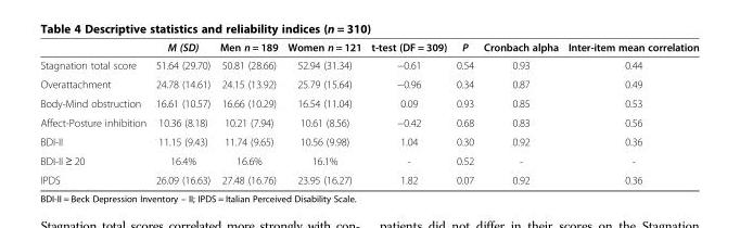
<table><thead><tr><td></td><td>M (SD)</td><td>Men n = 189</td><td>Women n = 121</td><td>t-test (DF = 309)</td><td>P</td><td>Cronbach alpha</td><td>Inter-item mean correlation</td></tr></thead><tbody><tr><td>Stagnation total score</td><td>51.64 (29.70)</td><td>50.81 (28.66)</td><td>52.94 (31.34)</td><td>−0.61</td><td>0.54</td><td>0.93</td><td>0.44</td></tr><tr><td>Overattachment</td><td>24.78 (14.61)</td><td>24.15 (13.92)</td><td>25.79 (15.64)</td><td>−0.96</td><td>0.34</td><td>0.87</td><td>0.49</td></tr><tr><td>Body-Mind obstruction</td><td>16.61 (10.57)</td><td>16.66 (10.29)</td><td>16.54 (11.04)</td><td>0.09</td><td>0.93</td><td>0.85</td><td>0.53</td></tr><tr><td>Affect-Posture inhibition</td><td>10.36 (8.18)</td><td>10.21 (7.94)</td><td>10.61 (8.56)</td><td>−0.42</td><td>0.68</td><td>0.83</td><td>0.56</td></tr><tr><td>BDI-II</td><td>11.15 (9.43)</td><td>11.74 (9.65)</td><td>10.56 (9.98)</td><td>1.04</td><td>0.30</td><td>0.92</td><td>0.36</td></tr><tr><td>BDI-II ≥ 20</td><td>16.4%</td><td>16.6%</td><td>16.1%</td><td>-</td><td>0.52</td><td>-</td><td>-</td></tr><tr><td>IPDS</td><td>26.09 (16.63)</td><td>27.48 (16.76)</td><td>23.95 (16.27)</td><td>1.82</td><td>0.07</td><td>0.92</td><td>0.36</td></tr></tbody></table>